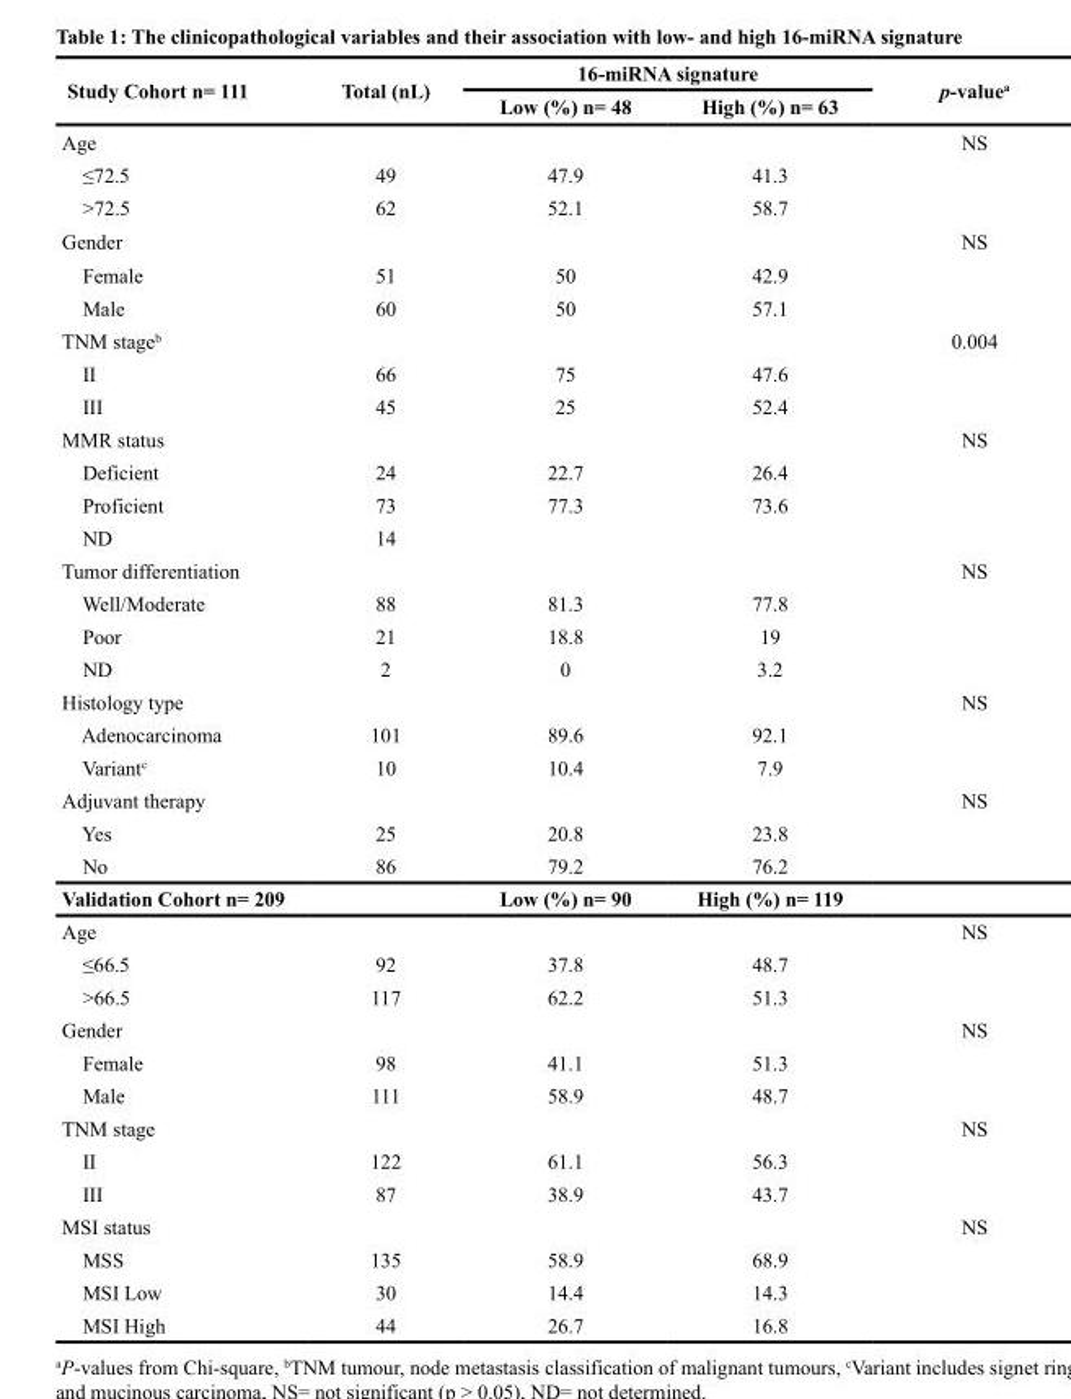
<table><thead><tr><td rowspan="2">Study Cohort n= 111</td><td rowspan="2">Total (nL)</td><td colspan="2">16-miRNA signature</td><td rowspan="2">p-value<sup>a</sup></td></tr><tr><td>Low (%) n= 48</td><td>High (%) n= 63</td></tr></thead><tbody><tr><td>Age</td><td></td><td></td><td></td><td>NS</td></tr><tr><td>≤72.5</td><td>49</td><td>47.9</td><td>41.3</td><td></td></tr><tr><td>&gt;72.5</td><td>62</td><td>52.1</td><td>58.7</td><td></td></tr><tr><td>Gender</td><td></td><td></td><td></td><td>NS</td></tr><tr><td>Female</td><td>51</td><td>50</td><td>42.9</td><td></td></tr><tr><td>Male</td><td>60</td><td>50</td><td>57.1</td><td></td></tr><tr><td>TNM stage<sup>b</sup></td><td></td><td></td><td></td><td>0.004</td></tr><tr><td>II</td><td>66</td><td>75</td><td>47.6</td><td></td></tr><tr><td>III</td><td>45</td><td>25</td><td>52.4</td><td></td></tr><tr><td>MMR status</td><td></td><td></td><td></td><td>NS</td></tr><tr><td>Deficient</td><td>24</td><td>22.7</td><td>26.4</td><td></td></tr><tr><td>Proficient</td><td>73</td><td>77.3</td><td>73.6</td><td></td></tr><tr><td>ND</td><td>14</td><td></td><td></td><td></td></tr><tr><td>Tumor differentiation</td><td></td><td></td><td></td><td>NS</td></tr><tr><td>Well/Moderate</td><td>88</td><td>81.3</td><td>77.8</td><td></td></tr><tr><td>Poor</td><td>21</td><td>18.8</td><td>19</td><td></td></tr><tr><td>ND</td><td>2</td><td>0</td><td>3.2</td><td></td></tr><tr><td>Histology type</td><td></td><td></td><td></td><td>NS</td></tr><tr><td>Adenocarcinoma</td><td>101</td><td>89.6</td><td>92.1</td><td></td></tr><tr><td>Variant<sup>c</sup></td><td>10</td><td>10.4</td><td>7.9</td><td></td></tr><tr><td>Adjuvant therapy</td><td></td><td></td><td></td><td>NS</td></tr><tr><td>Yes</td><td>25</td><td>20.8</td><td>23.8</td><td></td></tr><tr><td>No</td><td>86</td><td>79.2</td><td>76.2</td><td></td></tr><tr><td>Validation Cohort n= 209</td><td></td><td>Low (%) n= 90</td><td>High (%) n= 119</td><td></td></tr><tr><td>Age</td><td></td><td></td><td></td><td>NS</td></tr><tr><td>≤66.5</td><td>92</td><td>37.8</td><td>48.7</td><td></td></tr><tr><td>&gt;66.5</td><td>117</td><td>62.2</td><td>51.3</td><td></td></tr><tr><td>Gender</td><td></td><td></td><td></td><td>NS</td></tr><tr><td>Female</td><td>98</td><td>41.1</td><td>51.3</td><td></td></tr><tr><td>Male</td><td>111</td><td>58.9</td><td>48.7</td><td></td></tr><tr><td>TNM stage</td><td></td><td></td><td></td><td>NS</td></tr><tr><td>II</td><td>122</td><td>61.1</td><td>56.3</td><td></td></tr><tr><td>III</td><td>87</td><td>38.9</td><td>43.7</td><td></td></tr><tr><td>MSI status</td><td></td><td></td><td></td><td>NS</td></tr><tr><td>MSS</td><td>135</td><td>58.9</td><td>68.9</td><td></td></tr><tr><td>MSI Low</td><td>30</td><td>14.4</td><td>14.3</td><td></td></tr><tr><td>MSI High</td><td>44</td><td>26.7</td><td>16.8</td><td></td></tr></tbody></table>